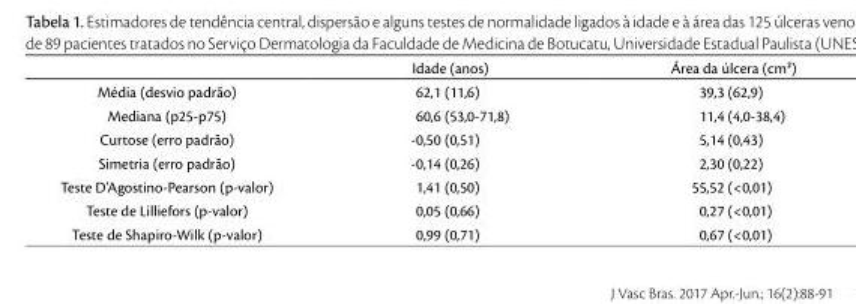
<table><thead><tr><td></td><td>Idade (anos)</td><td>Área da úlcera (cm<sup>2</sup>)</td></tr></thead><tbody><tr><td>Média (desvio padrão)</td><td>62,1 (11,6)</td><td>39,3 (62,9)</td></tr><tr><td>Mediana (p25-p75)</td><td>60,6 (53,0-71,8)</td><td>11,4 (4,0-38,4)</td></tr><tr><td>Curtose (erro padrão)</td><td>-0,50 (0,51)</td><td>5,14 (0,43)</td></tr><tr><td>Simetria (erro padrão)</td><td>-0,14 (0,26)</td><td>2,30 (0,22)</td></tr><tr><td>Teste D’Agostino-Pearson (p-valor)</td><td>1,41 (0,50)</td><td>55,52 (&lt;0,01)</td></tr><tr><td>Teste de Lilliefors (p-valor)</td><td>0,05 (0,66)</td><td>0,27 (&lt;0,01)</td></tr><tr><td>Teste de Shapiro-Wilk (p-valor)</td><td>0,99 (0,71)</td><td>0,67 (&lt;0,01)</td></tr></tbody></table>